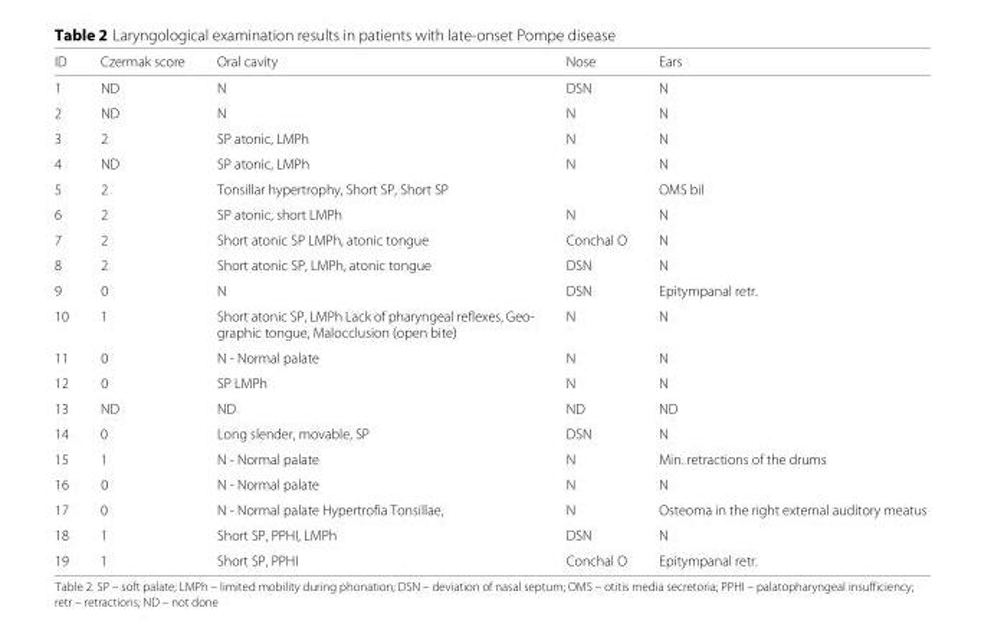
<table><thead><tr><td>ID</td><td>Czermak score</td><td>Oral cavity</td><td>Nose</td><td>Ears</td></tr></thead><tbody><tr><td>1</td><td>ND</td><td>N</td><td>DSN</td><td>N</td></tr><tr><td>2</td><td>ND</td><td>N</td><td>N</td><td>N</td></tr><tr><td>3</td><td>2</td><td>SP atonic, LMPh</td><td>N</td><td>N</td></tr><tr><td>4</td><td>ND</td><td>SP atonic, LMPh</td><td>N</td><td>N</td></tr><tr><td>5</td><td>2</td><td>Tonsillar hypertrophy, Short SP, Short SP</td><td></td><td>OMS bil</td></tr><tr><td>6</td><td>2</td><td>SP atonic, short LMPh</td><td>N</td><td>N</td></tr><tr><td>7</td><td>2</td><td>Short atonic SP LMPh, atonic tongue</td><td>Conchal O</td><td>N</td></tr><tr><td>8</td><td>2</td><td>Short atonic SP, LMPh, atonic tongue</td><td>DSN</td><td>N</td></tr><tr><td>9</td><td>0</td><td>N</td><td>DSN</td><td>Epitympanal retr.</td></tr><tr><td>10</td><td>1</td><td>Short atonic SP, LMPh Lack of pharyngeal reflexes, Geo- graphic tongue, Malocclusion (open bite)</td><td>N</td><td>N</td></tr><tr><td>11</td><td>0</td><td>N - Normal palate</td><td>N</td><td>N</td></tr><tr><td>12</td><td>0</td><td>SP LMPh</td><td>N</td><td>N</td></tr><tr><td>13</td><td>ND</td><td>ND</td><td>ND</td><td>ND</td></tr><tr><td>14</td><td>0</td><td>Long slender, movable, SP</td><td>DSN</td><td>N</td></tr><tr><td>15</td><td>1</td><td>N - Normal palate</td><td>N</td><td>Min. retractions of the drums</td></tr><tr><td>16</td><td>0</td><td>N - Normal palate</td><td>N</td><td>N</td></tr><tr><td>17</td><td>0</td><td>N - Normal palate Hypertrofia Tonsillae,</td><td>N</td><td>Osteoma in the right external auditory meatus</td></tr><tr><td>18</td><td>1</td><td>Short SP, PPHI, LMPh</td><td>DSN</td><td>N</td></tr><tr><td>19</td><td>1</td><td>Short SP, PPHI</td><td>Conchal O</td><td>Epitympanal retr.</td></tr></tbody></table>